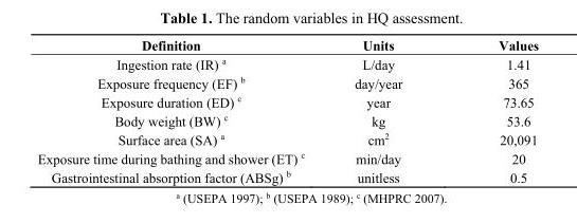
<table><thead><tr><td>Definition</td><td>Units</td><td>Values</td></tr></thead><tbody><tr><td>Ingestion rate (IR) <sup>a</sup></td><td>L/day</td><td>1.41</td></tr><tr><td>Exposure frequency (EF) <sup>b</sup></td><td>day/year</td><td>365</td></tr><tr><td>Exposure duration (ED) <sup>c</sup></td><td>year</td><td>73.65</td></tr><tr><td>Body weight (BW) <sup>c</sup></td><td>kg</td><td>53.6</td></tr><tr><td>Surface area (SA) <sup>a</sup></td><td>cm<sup>2</sup></td><td>20,091</td></tr><tr><td>Exposure time during bathing and shower (ET) <sup>c</sup></td><td>min/day</td><td>20</td></tr><tr><td>Gastrointestinal absorption factor (ABSg) <sup>b</sup></td><td>unitless</td><td>0.5</td></tr></tbody></table>